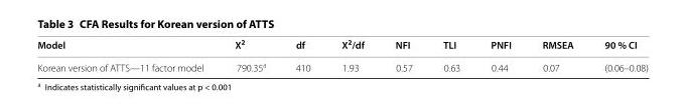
<table><thead><tr><td>Model</td><td>X<sup>2</sup></td><td>df</td><td>X<sup>2</sup>/df</td><td>NFI</td><td>TLI</td><td>PNFI</td><td>RMSEA</td><td>90 % CI</td></tr></thead><tbody><tr><td>Korean version of ATTS—11 factor model</td><td>790.35<sup>a</sup></td><td>410</td><td>1.93</td><td>0.57</td><td>0.63</td><td>0.44</td><td>0.07</td><td>(0.06–0.08)</td></tr></tbody></table>